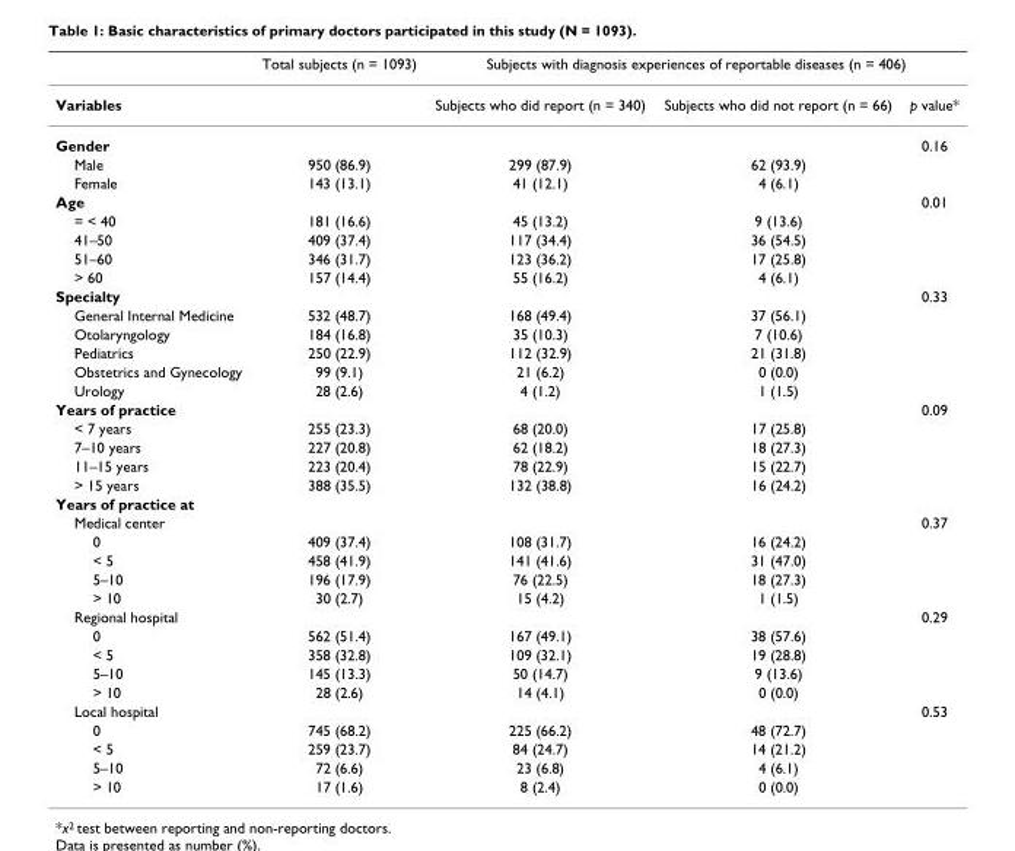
<table><thead><tr><td rowspan="2">Variables</td><td rowspan="2">Total subjects (n = 1093)</td><td colspan="3">Subjects with diagnosis experiences of reportable diseases (n = 406)</td></tr><tr><td>Subjects who did report (n = 340)</td><td>Subjects who did not report (n = 66)</td><td>p value*</td></tr></thead><tbody><tr><td>Gender</td><td></td><td></td><td></td><td>0.16</td></tr><tr><td>Male</td><td>950 (86.9)</td><td>299 (87.9)</td><td>62 (93.9)</td><td></td></tr><tr><td>Female</td><td>143 (13.1)</td><td>41 (12.1)</td><td>4 (6.1)</td><td></td></tr><tr><td>Age</td><td></td><td></td><td></td><td>0.01</td></tr><tr><td>= &lt; 40</td><td>181 (16.6)</td><td>45 (13.2)</td><td>9 (13.6)</td><td></td></tr><tr><td>41–50</td><td>409 (37.4)</td><td>117 (34.4)</td><td>36 (54.5)</td><td></td></tr><tr><td>51–60</td><td>346 (31.7)</td><td>123 (36.2)</td><td>17 (25.8)</td><td></td></tr><tr><td>&gt; 60</td><td>157 (14.4)</td><td>55 (16.2)</td><td>4 (6.1)</td><td></td></tr><tr><td>Specialty</td><td></td><td></td><td></td><td>0.33</td></tr><tr><td>General Internal Medicine</td><td>532 (48.7)</td><td>168 (49.4)</td><td>37 (56.1)</td><td></td></tr><tr><td>Otolaryngology</td><td>184 (16.8)</td><td>35 (10.3)</td><td>7 (10.6)</td><td></td></tr><tr><td>Pediatrics</td><td>250 (22.9)</td><td>112 (32.9)</td><td>21 (31.8)</td><td></td></tr><tr><td>Obstetrics and Gynecology</td><td>99 (9.1)</td><td>21 (6.2)</td><td>0 (0.0)</td><td></td></tr><tr><td>Urology</td><td>28 (2.6)</td><td>4 (1.2)</td><td>1 (1.5)</td><td></td></tr><tr><td>Years of practice</td><td></td><td></td><td></td><td>0.09</td></tr><tr><td>&lt; 7 years</td><td>255 (23.3)</td><td>68 (20.0)</td><td>17 (25.8)</td><td></td></tr><tr><td>7–10 years</td><td>227 (20.8)</td><td>62 (18.2)</td><td>18 (27.3)</td><td></td></tr><tr><td>11–15 years</td><td>223 (20.4)</td><td>78 (22.9)</td><td>15 (22.7)</td><td></td></tr><tr><td>&gt; 15 years</td><td>388 (35.5)</td><td>132 (38.8)</td><td>16 (24.2)</td><td></td></tr><tr><td colspan="5">Years of practice at</td></tr><tr><td>Medical center</td><td></td><td></td><td></td><td>0.37</td></tr><tr><td>0</td><td>409 (37.4)</td><td>108 (31.7)</td><td>16 (24.2)</td><td></td></tr><tr><td>&lt; 5</td><td>458 (41.9)</td><td>141 (41.6)</td><td>31 (47.0)</td><td></td></tr><tr><td>5–10</td><td>196 (17.9)</td><td>76 (22.5)</td><td>18 (27.3)</td><td></td></tr><tr><td>&gt; 10</td><td>30 (2.7)</td><td>15 (4.2)</td><td>1 (1.5)</td><td></td></tr><tr><td>Regional hospital</td><td></td><td></td><td></td><td>0.29</td></tr><tr><td>0</td><td>562 (51.4)</td><td>167 (49.1)</td><td>38 (57.6)</td><td></td></tr><tr><td>&lt; 5</td><td>358 (32.8)</td><td>109 (32.1)</td><td>19 (28.8)</td><td></td></tr><tr><td>5–10</td><td>145 (13.3)</td><td>50 (14.7)</td><td>9 (13.6)</td><td></td></tr><tr><td>&gt; 10</td><td>28 (2.6)</td><td>14 (4.1)</td><td>0 (0.0)</td><td></td></tr><tr><td>Local hospital</td><td></td><td></td><td></td><td>0.53</td></tr><tr><td>0</td><td>745 (68.2)</td><td>225 (66.2)</td><td>48 (72.7)</td><td></td></tr><tr><td>&lt; 5</td><td>259 (23.7)</td><td>84 (24.7)</td><td>14 (21.2)</td><td></td></tr><tr><td>5–10</td><td>72 (6.6)</td><td>23 (6.8)</td><td>4 (6.1)</td><td></td></tr><tr><td>&gt; 10</td><td>17 (1.6)</td><td>8 (2.4)</td><td>0 (0.0)</td><td></td></tr></tbody></table>